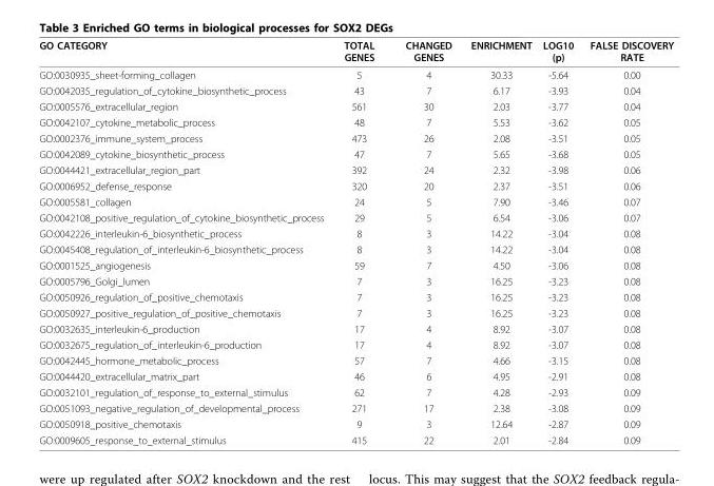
<table><thead><tr><td>GO CATEGORY</td><td>TOTAL GENES</td><td>CHANGED GENES</td><td>ENRICHMENT</td><td>LOG10 (p)</td><td>FALSE DISCOVERY RATE</td></tr></thead><tbody><tr><td>GO:0030935_sheet-forming_collagen</td><td>5</td><td>4</td><td>30.33</td><td>-5.64</td><td>0.00</td></tr><tr><td>GO:0042035_regulation_of_cytokine_biosynthetic_process</td><td>43</td><td>7</td><td>6.17</td><td>-3.93</td><td>0.04</td></tr><tr><td>GO:0005576_extracellular_region</td><td>561</td><td>30</td><td>2.03</td><td>-3.77</td><td>0.04</td></tr><tr><td>GO:0042107_cytokine_metabolic_process</td><td>48</td><td>7</td><td>5.53</td><td>-3.62</td><td>0.05</td></tr><tr><td>GO:0002376_immune_system_process</td><td>473</td><td>26</td><td>2.08</td><td>-3.51</td><td>0.05</td></tr><tr><td>GO:0042089_cytokine_biosynthetic_process</td><td>47</td><td>7</td><td>5.65</td><td>-3.68</td><td>0.05</td></tr><tr><td>GO:0044421_extracellular_region_part</td><td>392</td><td>24</td><td>2.32</td><td>-3.98</td><td>0.06</td></tr><tr><td>GO:0006952_defense_response</td><td>320</td><td>20</td><td>2.37</td><td>-3.51</td><td>0.06</td></tr><tr><td>GO:0005581_collagen</td><td>24</td><td>5</td><td>7.90</td><td>-3.46</td><td>0.07</td></tr><tr><td>GO:0042108_positive_regulation_of_cytokine_biosynthetic_process</td><td>29</td><td>5</td><td>6.54</td><td>-3.06</td><td>0.07</td></tr><tr><td>GO:0042226_interleukin-6_biosynthetic_process</td><td>8</td><td>3</td><td>14.22</td><td>-3.04</td><td>0.08</td></tr><tr><td>GO:0045408_regulation_of_interleukin-6_biosynthetic_process</td><td>8</td><td>3</td><td>14.22</td><td>-3.04</td><td>0.08</td></tr><tr><td>GO:0001525_angiogenesis</td><td>59</td><td>7</td><td>4.50</td><td>-3.06</td><td>0.08</td></tr><tr><td>GO:0005796_Golgi_lumen</td><td>7</td><td>3</td><td>16.25</td><td>-3.23</td><td>0.08</td></tr><tr><td>GO:0050926_regulation_of_positive_chemotaxis</td><td>7</td><td>3</td><td>16.25</td><td>-3.23</td><td>0.08</td></tr><tr><td>GO:0050927_positive_regulation_of_positive_chemotaxis</td><td>7</td><td>3</td><td>16.25</td><td>-3.23</td><td>0.08</td></tr><tr><td>GO:0032635_interleukin-6_production</td><td>17</td><td>4</td><td>8.92</td><td>-3.07</td><td>0.08</td></tr><tr><td>GO:0032675_regulation_of_interleukin-6_production</td><td>17</td><td>4</td><td>8.92</td><td>-3.07</td><td>0.08</td></tr><tr><td>GO:0042445_hormone_metabolic_process</td><td>57</td><td>7</td><td>4.66</td><td>-3.15</td><td>0.08</td></tr><tr><td>GO:0044420_extracellular_matrix_part</td><td>46</td><td>6</td><td>4.95</td><td>-2.91</td><td>0.08</td></tr><tr><td>GO:0032101_regulation_of_response_to_external_stimulus</td><td>62</td><td>7</td><td>4.28</td><td>-2.93</td><td>0.09</td></tr><tr><td>GO:0051093_negative_regulation_of_developmental_process</td><td>271</td><td>17</td><td>2.38</td><td>-3.08</td><td>0.09</td></tr><tr><td>GO:0050918_positive_chemotaxis</td><td>9</td><td>3</td><td>12.64</td><td>-2.87</td><td>0.09</td></tr><tr><td>GO:0009605_response_to_external_stimulus</td><td>415</td><td>22</td><td>2.01</td><td>-2.84</td><td>0.09</td></tr></tbody></table>